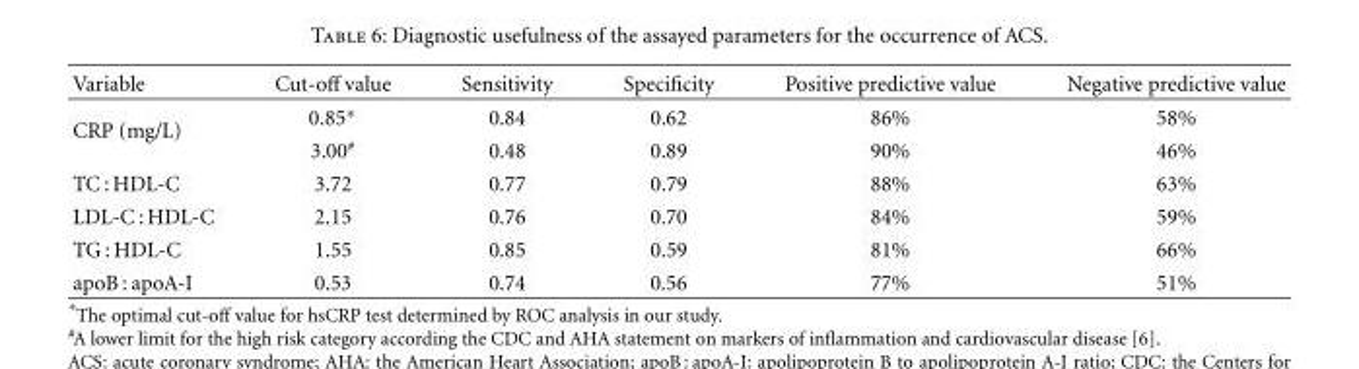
<table><thead><tr><td>Variable</td><td>Cut-off value</td><td>Sensitivity</td><td>Specificity</td><td>Positive predictive value</td><td>Negative predictive value</td></tr></thead><tbody><tr><td rowspan="2">CRP (mg/L)</td><td>0.85∗</td><td>0.84</td><td>0.62</td><td>86%</td><td>58%</td></tr><tr><td>3.00<sup>#</sup></td><td>0.48</td><td>0.89</td><td>90%</td><td>46%</td></tr><tr><td>TC : HDL-C</td><td>3.72</td><td>0.77</td><td>0.79</td><td>88%</td><td>63%</td></tr><tr><td>LDL-C : HDL-C</td><td>2.15</td><td>0.76</td><td>0.70</td><td>84%</td><td>59%</td></tr><tr><td>TG : HDL-C</td><td>1.55</td><td>0.85</td><td>0.59</td><td>81%</td><td>66%</td></tr><tr><td>apoB : apoA-I</td><td>0.53</td><td>0.74</td><td>0.56</td><td>77%</td><td>51%</td></tr></tbody></table>